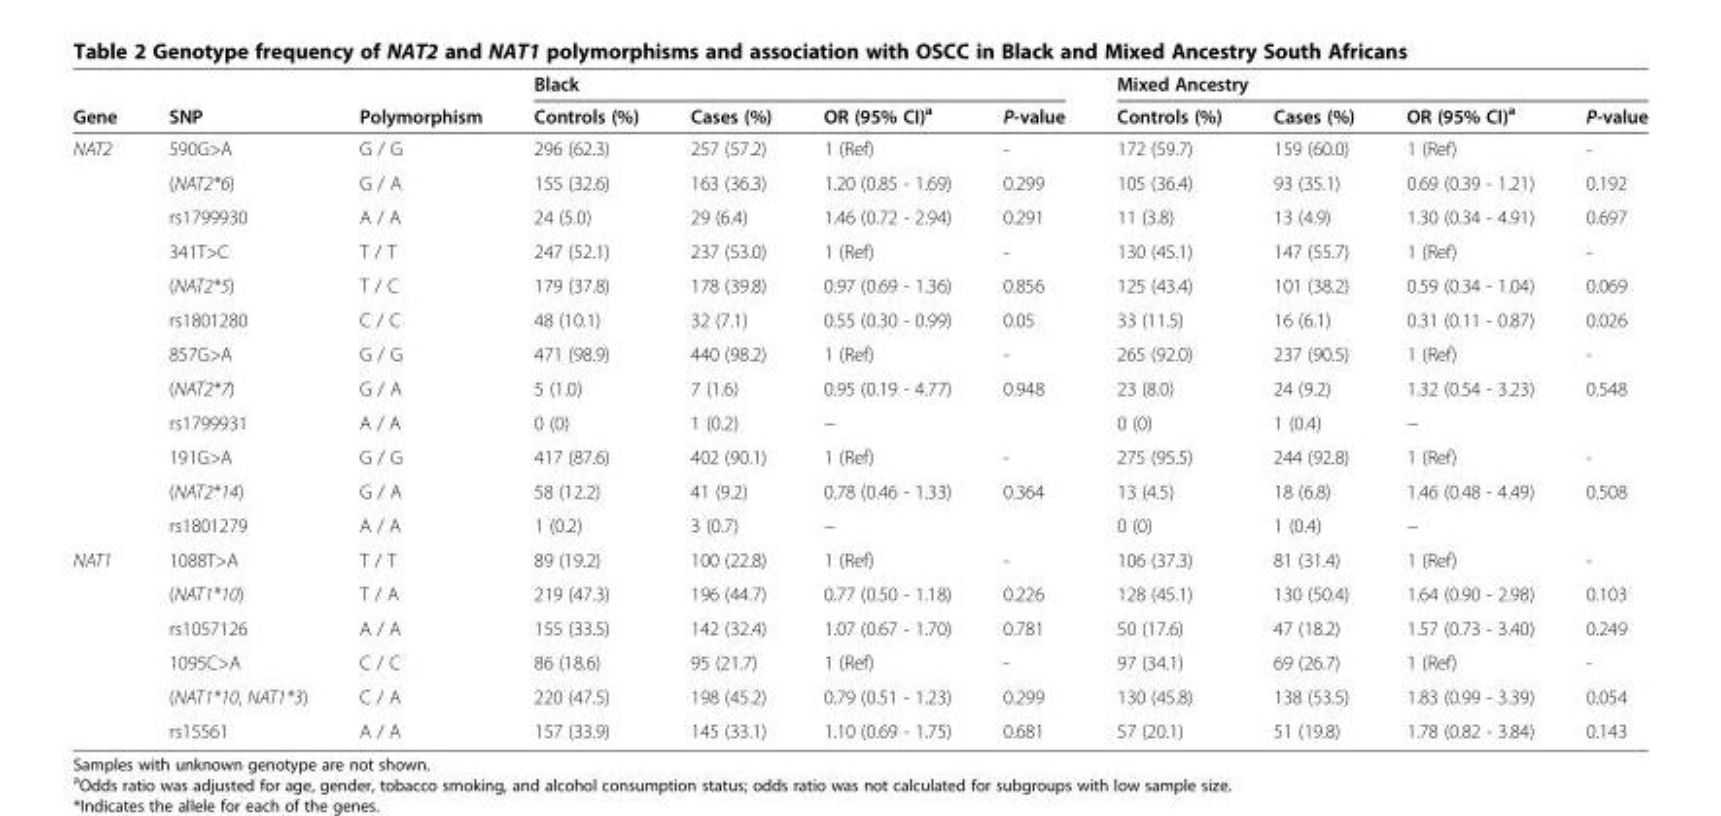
<table><thead><tr><td rowspan="2">Gene</td><td rowspan="2">SNP</td><td rowspan="2">Polymorphism</td><td colspan="4">Black</td><td colspan="4">Mixed Ancestry</td></tr><tr><td>Controls (%)</td><td>Cases (%)</td><td>OR (95% CI)<sup>a</sup></td><td>P-value</td><td>Controls (%)</td><td>Cases (%)</td><td>OR (95% CI)<sup>a</sup></td><td>P-value</td></tr></thead><tbody><tr><td rowspan="12">NAT2</td><td>590G&gt;A</td><td>G / G</td><td>296 (62.3)</td><td>257 (57.2)</td><td>1 (Ref)</td><td>-</td><td>172 (59.7)</td><td>159 (60.0)</td><td>1 (Ref)</td><td>-</td></tr><tr><td>(NAT2*6)</td><td>G / A</td><td>155 (32.6)</td><td>163 (36.3)</td><td>1.20 (0.85 - 1.69)</td><td>0.299</td><td>105 (36.4)</td><td>93 (35.1)</td><td>0.69 (0.39 - 1.21)</td><td>0.192</td></tr><tr><td>rs1799930</td><td>A / A</td><td>24 (5.0)</td><td>29 (6.4)</td><td>1.46 (0.72 - 2.94)</td><td>0.291</td><td>11 (3.8)</td><td>13 (4.9)</td><td>1.30 (0.34 - 4.91)</td><td>0.697</td></tr><tr><td>341T&gt;C</td><td>T / T</td><td>247 (52.1)</td><td>237 (53.0)</td><td>1 (Ref)</td><td>-</td><td>130 (45.1)</td><td>147 (55.7)</td><td>1 (Ref)</td><td>-</td></tr><tr><td>(NAT2*5)</td><td>T / C</td><td>179 (37.8)</td><td>178 (39.8)</td><td>0.97 (0.69 - 1.36)</td><td>0.856</td><td>125 (43.4)</td><td>101 (38.2)</td><td>0.59 (0.34 - 1.04)</td><td>0.069</td></tr><tr><td>rs1801280</td><td>C / C</td><td>48 (10.1)</td><td>32 (7.1)</td><td>0.55 (0.30 - 0.99)</td><td>0.05</td><td>33 (11.5)</td><td>16 (6.1)</td><td>0.31 (0.11 - 0.87)</td><td>0.026</td></tr><tr><td>857G&gt;A</td><td>G / G</td><td>471 (98.9)</td><td>440 (98.2)</td><td>1 (Ref)</td><td>-</td><td>265 (92.0)</td><td>237 (90.5)</td><td>1 (Ref)</td><td>-</td></tr><tr><td>(NAT2*7)</td><td>G / A</td><td>5 (1.0)</td><td>7 (1.6)</td><td>0.95 (0.19 - 4.77)</td><td>0.948</td><td>23 (8.0)</td><td>24 (9.2)</td><td>1.32 (0.54 - 3.23)</td><td>0.548</td></tr><tr><td>rs1799931</td><td>A / A</td><td>0 (0)</td><td>1 (0.2)</td><td>−</td><td></td><td>0 (0)</td><td>1 (0.4)</td><td>−</td><td></td></tr><tr><td>191G&gt;A</td><td>G / G</td><td>417 (87.6)</td><td>402 (90.1)</td><td>1 (Ref)</td><td>-</td><td>275 (95.5)</td><td>244 (92.8)</td><td>1 (Ref)</td><td>-</td></tr><tr><td>(NAT2*14)</td><td>G / A</td><td>58 (12.2)</td><td>41 (9.2)</td><td>0.78 (0.46 - 1.33)</td><td>0.364</td><td>13 (4.5)</td><td>18 (6.8)</td><td>1.46 (0.48 - 4.49)</td><td>0.508</td></tr><tr><td>rs1801279</td><td>A / A</td><td>1 (0.2)</td><td>3 (0.7)</td><td>−</td><td></td><td>0 (0)</td><td>1 (0.4)</td><td>−</td><td></td></tr><tr><td rowspan="6">NAT1</td><td>1088T&gt;A</td><td>T / T</td><td>89 (19.2)</td><td>100 (22.8)</td><td>1 (Ref)</td><td>-</td><td>106 (37.3)</td><td>81 (31.4)</td><td>1 (Ref)</td><td>-</td></tr><tr><td>(NAT1*10)</td><td>T / A</td><td>219 (47.3)</td><td>196 (44.7)</td><td>0.77 (0.50 - 1.18)</td><td>0.226</td><td>128 (45.1)</td><td>130 (50.4)</td><td>1.64 (0.90 - 2.98)</td><td>0.103</td></tr><tr><td>rs1057126</td><td>A / A</td><td>155 (33.5)</td><td>142 (32.4)</td><td>1.07 (0.67 - 1.70)</td><td>0.781</td><td>50 (17.6)</td><td>47 (18.2)</td><td>1.57 (0.73 - 3.40)</td><td>0.249</td></tr><tr><td>1095C&gt;A</td><td>C / C</td><td>86 (18.6)</td><td>95 (21.7)</td><td>1 (Ref)</td><td>-</td><td>97 (34.1)</td><td>69 (26.7)</td><td>1 (Ref)</td><td>-</td></tr><tr><td>(NAT1*10, NAT1*3)</td><td>C / A</td><td>220 (47.5)</td><td>198 (45.2)</td><td>0.79 (0.51 - 1.23)</td><td>0.299</td><td>130 (45.8)</td><td>138 (53.5)</td><td>1.83 (0.99 - 3.39)</td><td>0.054</td></tr><tr><td>rs15561</td><td>A / A</td><td>157 (33.9)</td><td>145 (33.1)</td><td>1.10 (0.69 - 1.75)</td><td>0.681</td><td>57 (20.1)</td><td>51 (19.8)</td><td>1.78 (0.82 - 3.84)</td><td>0.143</td></tr></tbody></table>